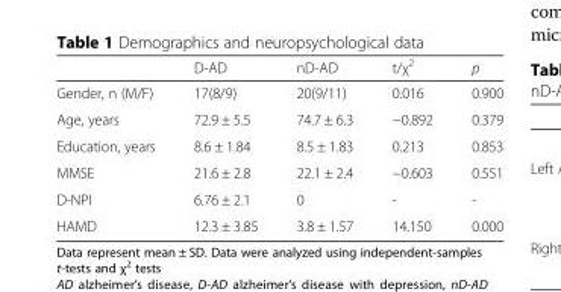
<table><thead><tr><td></td><td>D-AD</td><td>nD-AD</td><td>t/χ<sup>2</sup></td><td>p</td></tr></thead><tbody><tr><td>Gender, n (M/F)</td><td>17(8/9)</td><td>20(9/11)</td><td>0.016</td><td>0.900</td></tr><tr><td>Age, years</td><td>72.9 ± 5.5</td><td>74.7 ± 6.3</td><td>−0.892</td><td>0.379</td></tr><tr><td>Education, years</td><td>8.6 ± 1.84</td><td>8.5 ± 1.83</td><td>0.213</td><td>0.853</td></tr><tr><td>MMSE</td><td>21.6 ± 2.8</td><td>22.1 ± 2.4</td><td>−0.603</td><td>0.551</td></tr><tr><td>D-NPI</td><td>6.76 ± 2.1</td><td>0</td><td>-</td><td>-</td></tr><tr><td>HAMD</td><td>12.3 ± 3.85</td><td>3.8 ± 1.57</td><td>14.150</td><td>0.000</td></tr></tbody></table>